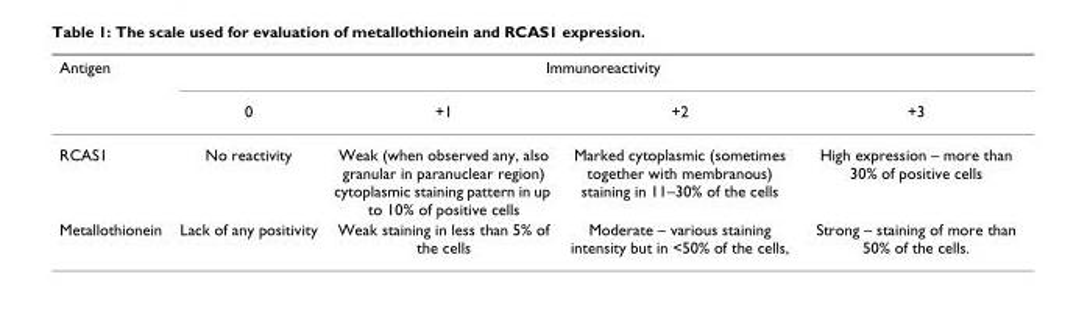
<table><thead><tr><td rowspan="2">Antigen</td><td colspan="4">Immunoreactivity</td></tr><tr><td>0</td><td>+1</td><td>+2</td><td>+3</td></tr></thead><tbody><tr><td>RCAS1</td><td>No reactivity</td><td>Weak (when observed any, also granular in paranuclear region) cytoplasmic staining pattern in up to 10% of positive cells</td><td>Marked cytoplasmic (sometimes together with membranous) staining in 11–30% of the cells</td><td>High expression – more than 30% of positive cells</td></tr><tr><td>Metallothionein</td><td>Lack of any positivity</td><td>Weak staining in less than 5% of the cells</td><td>Moderate – various staining intensity but in &lt;50% of the cells,</td><td>Strong – staining of more than 50% of the cells.</td></tr></tbody></table>